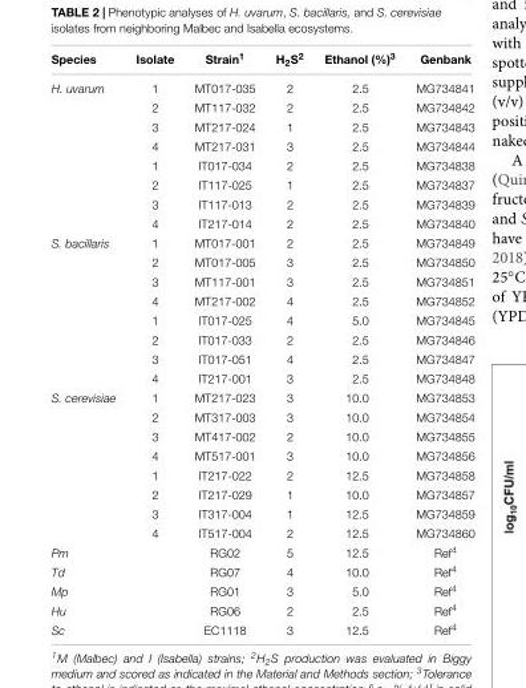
<table><thead><tr><td>Species</td><td>Isolate</td><td>Strain<sup>1</sup></td><td>H<sub>2</sub>S<sup>2</sup></td><td>Ethanol (%)<sup>3</sup></td><td>Genbank</td></tr></thead><tbody><tr><td rowspan="8">H. uvarum</td><td>1</td><td>MT017-035</td><td>2</td><td>2.5</td><td>MG734841</td></tr><tr><td>2</td><td>MT117-032</td><td>2</td><td>2.5</td><td>MG734842</td></tr><tr><td>3</td><td>MT217-024</td><td>1</td><td>2.5</td><td>MG734843</td></tr><tr><td>4</td><td>MT217-031</td><td>3</td><td>2.5</td><td>MG734844</td></tr><tr><td>1</td><td>IT017-034</td><td>2</td><td>2.5</td><td>MG734838</td></tr><tr><td>2</td><td>IT117-025</td><td>1</td><td>2.5</td><td>MG734837</td></tr><tr><td>3</td><td>IT117-013</td><td>2</td><td>2.5</td><td>MG734839</td></tr><tr><td>4</td><td>IT217-014</td><td>2</td><td>2.5</td><td>MG734840</td></tr><tr><td rowspan="8">S. bacillaris</td><td>1</td><td>MT017-001</td><td>2</td><td>2.5</td><td>MG734849</td></tr><tr><td>2</td><td>MT017-005</td><td>3</td><td>2.5</td><td>MG734850</td></tr><tr><td>3</td><td>MT117-001</td><td>3</td><td>2.5</td><td>MG734851</td></tr><tr><td>4</td><td>MT217-002</td><td>4</td><td>2.5</td><td>MG734852</td></tr><tr><td>1</td><td>IT017-025</td><td>4</td><td>5.0</td><td>MG734845</td></tr><tr><td>2</td><td>IT017-033</td><td>2</td><td>2.5</td><td>MG734846</td></tr><tr><td>3</td><td>IT017-051</td><td>4</td><td>2.5</td><td>MG734847</td></tr><tr><td>4</td><td>IT217-001</td><td>3</td><td>2.5</td><td>MG734848</td></tr><tr><td rowspan="8">S. cerevisiae</td><td>1</td><td>MT217-023</td><td>3</td><td>10.0</td><td>MG734853</td></tr><tr><td>2</td><td>MT317-003</td><td>3</td><td>10.0</td><td>MG734854</td></tr><tr><td>3</td><td>MT417-002</td><td>2</td><td>10.0</td><td>MG734855</td></tr><tr><td>4</td><td>MT517-001</td><td>3</td><td>10.0</td><td>MG734856</td></tr><tr><td>1</td><td>IT217-022</td><td>2</td><td>12.5</td><td>MG734858</td></tr><tr><td>2</td><td>IT217-029</td><td>1</td><td>10.0</td><td>MG734857</td></tr><tr><td>3</td><td>IT317-004</td><td>1</td><td>12.5</td><td>MG734859</td></tr><tr><td>4</td><td>IT517-004</td><td>2</td><td>12.5</td><td>MG734860</td></tr><tr><td>Pm</td><td></td><td>RG02</td><td>5</td><td>12.5</td><td>Ref<sup>4</sup></td></tr><tr><td>Td</td><td></td><td>RG07</td><td>4</td><td>10.0</td><td>Ref<sup>4</sup></td></tr><tr><td>Mp</td><td></td><td>RG01</td><td>3</td><td>5.0</td><td>Ref<sup>4</sup></td></tr><tr><td>Hu</td><td></td><td>RG06</td><td>2</td><td>2.5</td><td>Ref<sup>4</sup></td></tr><tr><td>Sc</td><td></td><td>EC1118</td><td>3</td><td>12.5</td><td>Ref<sup>4</sup></td></tr></tbody></table>